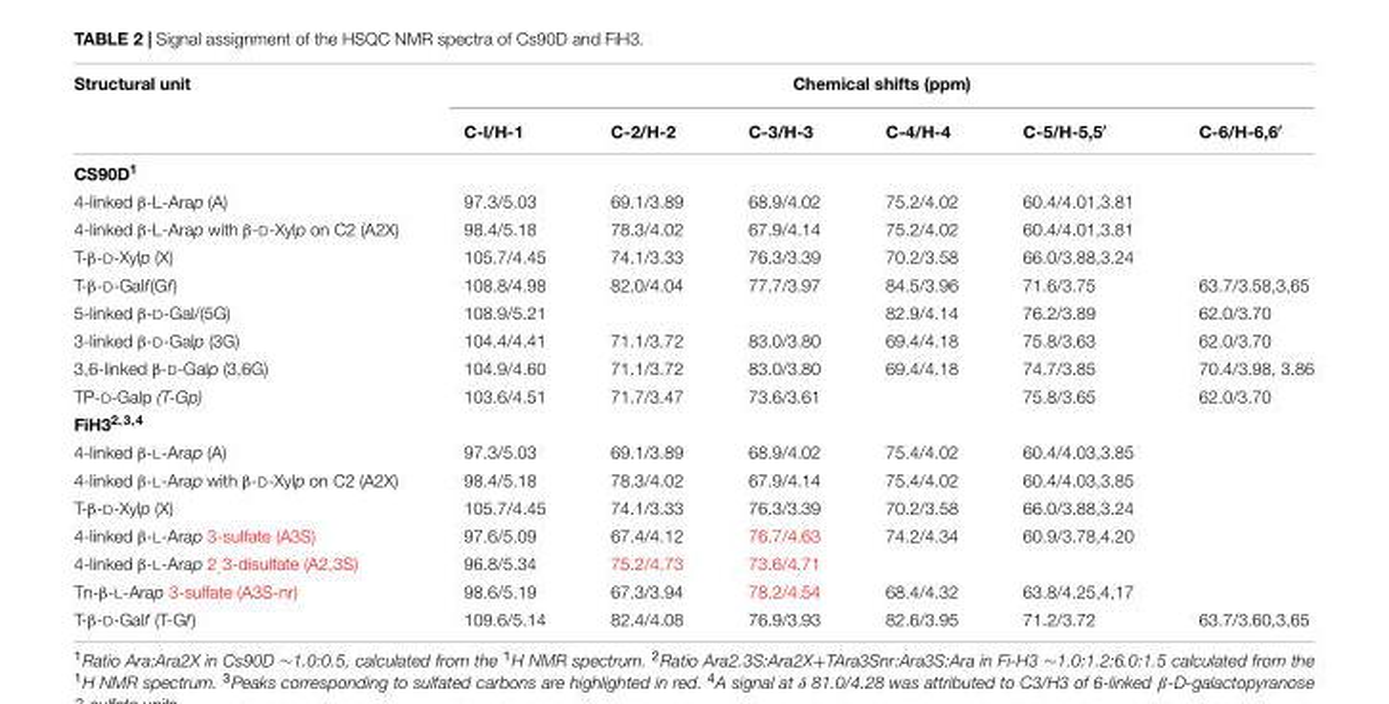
<table><thead><tr><td rowspan="2">Structural unit</td><td colspan="6">Chemical shifts (ppm)</td></tr><tr><td>C-l/H-1</td><td>C-2/H-2</td><td>C-3/H-3</td><td>C-4/H-4</td><td>C-5/H-5,5′</td><td>C-6/H-6,6′</td></tr></thead><tbody><tr><td colspan="7">CS90D<sup>1</sup></td></tr><tr><td>4-linked β-L-Arap (A)</td><td>97.3/5.03</td><td>69.1/3.89</td><td>68.9/4.02</td><td>75.2/4.02</td><td>60.4/4.01,3.81</td><td></td></tr><tr><td>4-linked β-L-Arap with β-D-Xylp on C2 (A2X)</td><td>98.4/5.18</td><td>78.3/4.02</td><td>67.9/4.14</td><td>75.2/4.02</td><td>60.4/4.01,3.81</td><td></td></tr><tr><td>T-β-D-Xylp (X)</td><td>105.7/4.45</td><td>74.1/3.33</td><td>76.3/3.39</td><td>70.2/3.58</td><td>66.0/3.88,3.24</td><td></td></tr><tr><td>T-β-D-Galf(Gf)</td><td>108.8/4.98</td><td>82.0/4.04</td><td>77.7/3.97</td><td>84.5/3.96</td><td>71.6/3.75</td><td>63.7/3.58,3,65</td></tr><tr><td>5-linked β-D-Gal/(5G)</td><td>108.9/5.21</td><td></td><td></td><td>82.9/4.14</td><td>76.2/3.89</td><td>62.0/3.70</td></tr><tr><td>3-linked β-D-Galp (3G)</td><td>104.4/4.41</td><td>71.1/3.72</td><td>83.0/3.80</td><td>69.4/4.18</td><td>75.8/3.63</td><td>62.0/3.70</td></tr><tr><td>3,6-linked β-D-Galp (3,6G)</td><td>104.9/4.60</td><td>71.1/3.72</td><td>83.0/3.80</td><td>69.4/4.18</td><td>74.7/3.85</td><td>70.4/3.98, 3.86</td></tr><tr><td>TP-D-Galp (T-Gp)</td><td>103.6/4.51</td><td>71.7/3.47</td><td>73.6/3.61</td><td></td><td>75.8/3.65</td><td>62.0/3.70</td></tr><tr><td colspan="7">FiH3<sup>2,3,4</sup></td></tr><tr><td>4-linked β-L-Arap (A)</td><td>97.3/5.03</td><td>69.1/3.89</td><td>68.9/4.02</td><td>75.4/4.02</td><td>60.4/4.03,3.85</td><td></td></tr><tr><td>4-linked β-L-Arap with β-D-Xylp on C2 (A2X)</td><td>98.4/5.18</td><td>78.3/4.02</td><td>67.9/4.14</td><td>75.4/4.02</td><td>60.4/4.03,3.85</td><td></td></tr><tr><td>T-β-D-Xylp (X)</td><td>105.7/4.45</td><td>74.1/3.33</td><td>76.3/3.39</td><td>70.2/3.58</td><td>66.0/3.88,3.24</td><td></td></tr><tr><td>4-linked β-L-Arap 3-sulfate (A3S)</td><td>97.6/5.09</td><td>67.4/4.12</td><td>76.7/4.63</td><td>74.2/4.34</td><td>60.9/3.78,4.20</td><td></td></tr><tr><td>4-linked β-L-Arap 2<sub>,</sub>3-disulfate (A2,3S)</td><td>96.8/5.34</td><td>75.2/4.73</td><td>73.6/4.71</td><td></td><td></td><td></td></tr><tr><td>Tn-β-L-Arap 3-sulfate (A3S-nr)</td><td>98.6/5.19</td><td>67.3/3.94</td><td>78.2/4.54</td><td>68.4/4.32</td><td>63.8/4.25,4,17</td><td></td></tr><tr><td>T-β-D-Galf (T-Gf)</td><td>109.6/5.14</td><td>82.4/4.08</td><td>76.9/3.93</td><td>82.6/3.95</td><td>71.2/3.72</td><td>63.7/3.60,3,65</td></tr></tbody></table>